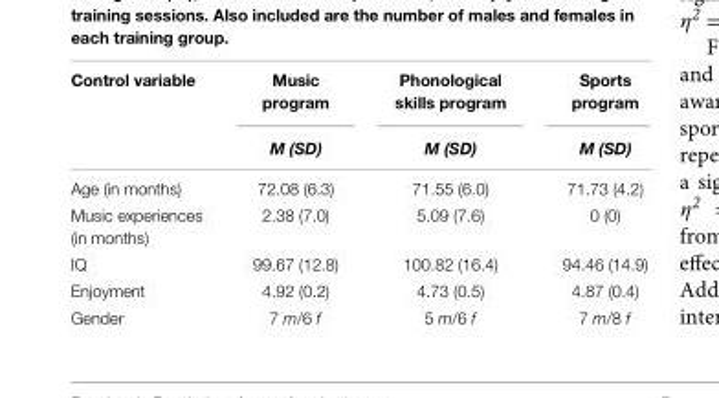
<table><thead><tr><td rowspan="2">Control variable</td><td rowspan="2">Music program M (SD)</td><td rowspan="2">Phonological skills program M (SD)</td><td rowspan="2">Sports program M (SD)</td></tr><tr></tr></thead><tbody><tr><td>Age (in months)</td><td>72.08 (6.3)</td><td>71.55 (6.0)</td><td>71.73 (4.2)</td></tr><tr><td>Music experiences (in months)</td><td>2.38 (7.0)</td><td>5.09 (7.6)</td><td>0 (0)</td></tr><tr><td>IQ</td><td>99.67 (12.8)</td><td>100.82 (16.4)</td><td>94.46 (14.9)</td></tr><tr><td>Enjoyment</td><td>4.92 (0.2)</td><td>4.73 (0.5)</td><td>4.87 (0.4)</td></tr><tr><td>Gender</td><td>7 m/6 f</td><td>5 m/6 f</td><td>7 m/8 f</td></tr></tbody></table>